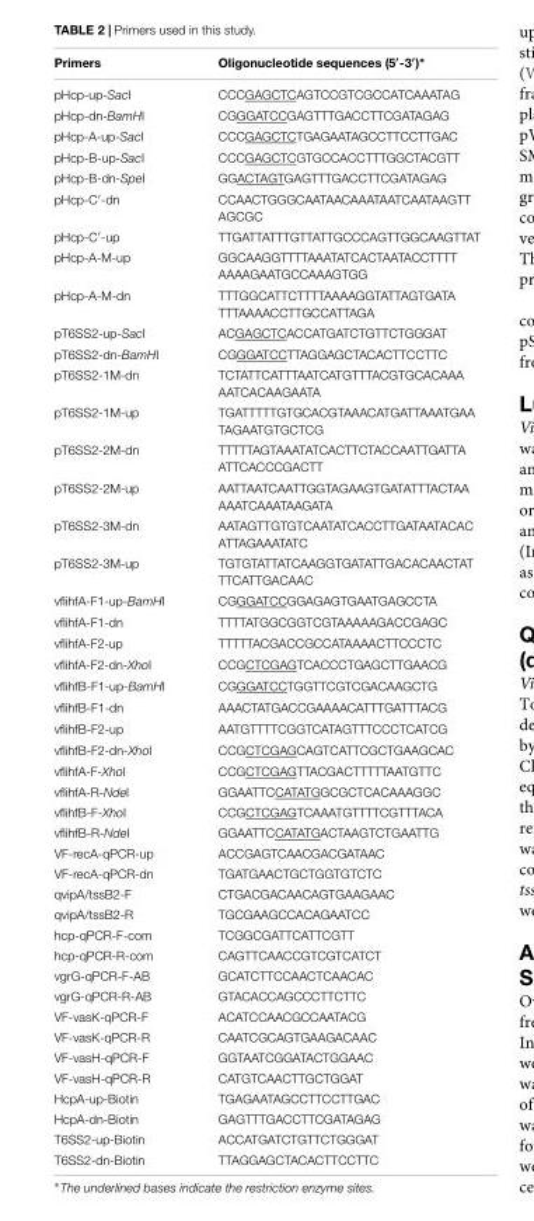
<table><thead><tr><td>Primers</td><td>Oligonucleotide sequences (5′-3′)∗</td></tr></thead><tbody><tr><td>pHcp-up-SacI</td><td>CCCGAGCTCAGTCCGTCGCCATCAAATAG</td></tr><tr><td>pHcp-dn-BamHI</td><td>CGGGATCCGAGTTTGACCTTCGATAGAG</td></tr><tr><td>pHcp-A-up-SacI</td><td>CCCGAGCTCTGAGAATAGCCTTCCTTGAC</td></tr><tr><td>pHcp-B-up-SacI</td><td>CCCGAGCTCGTGCCACCTTTGGCTACGTT</td></tr><tr><td>pHcp-B-dn-SpeI</td><td>GGACTAGTGAGTTTGACCTTCGATAGAG</td></tr><tr><td>pHcp-C′-dn</td><td>CCAACTGGGCAATAACAAATAATCAATAAGTT AGCGC</td></tr><tr><td>pHcp-C′-up</td><td>TTGATTATTTGTTATTGCCCAGTTGGCAAGTTAT</td></tr><tr><td>pHcp-A-M-up</td><td>GGCAAGGTTTTAAATATCACTAATACCTTTT AAAAGAATGCCAAAGTGG</td></tr><tr><td>pHcp-A-M-dn</td><td>TTTGGCATTCTTTTAAAAGGTATTAGTGATA TTTAAAACCTTGCCATTAGA</td></tr><tr><td>pT6SS2-up-SacI</td><td>ACGAGCTCACCATGATCTGTTCTGGGAT</td></tr><tr><td>pT6SS2-dn-BamHI</td><td>CGGGATCCTTAGGAGCTACACTTCCTTC</td></tr><tr><td>pT6SS2-1M-dn</td><td>TCTATTCATTTAATCATGTTTACGTGCACAAA AATCACAAGAATA</td></tr><tr><td>pT6SS2-1M-up</td><td>TGATTTTTGTGCACGTAAACATGATTAAATGAA TAGAATGTGCTCG</td></tr><tr><td>pT6SS2-2M-dn</td><td>TTTTTAGTAAATATCACTTCTACCAATTGATTA ATTCACCCGACTT</td></tr><tr><td>pT6SS2-2M-up</td><td>AATTAATCAATTGGTAGAAGTGATATTTACTAA AAATCAAATAAGATA</td></tr><tr><td>pT6SS2-3M-dn</td><td>AATAGTTGTGTCAATATCACCTTGATAATACAC ATTAGAAATATC</td></tr><tr><td>pT6SS2-3M-up</td><td>TGTGTATTATCAAGGTGATATTGACACAACTAT TTCATTGACAAC</td></tr><tr><td>vflihfA-F1-up-BamHI</td><td>CGGGATCCGGAGAGTGAATGAGCCTA</td></tr><tr><td>vflihfA-F1-dn</td><td>TTTTATGGCGGTCGTAAAAAGACCGAGC</td></tr><tr><td>vflihfA-F2-up</td><td>TTTTTACGACCGCCATAAAACTTCCCTC</td></tr><tr><td>vflihfA-F2-dn-XhoI</td><td>CCGCTCGAGTCACCCTGAGCTTGAACG</td></tr><tr><td>vflihfB-F1-up-BamHI</td><td>CGGGATCCTGGTTCGTCGACAAGCTG</td></tr><tr><td>vflihfB-F1-dn</td><td>AAACTATGACCGAAAACATTTGATTTACG</td></tr><tr><td>vflihfB-F2-up</td><td>AATGTTTTCGGTCATAGTTTCCCTCATCG</td></tr><tr><td>vflihfB-F2-dn-XhoI</td><td>CCGCTCGAGCAGTCATTCGCTGAAGCAC</td></tr><tr><td>vflihfA-F-XhoI</td><td>CCGCTCGAGTTACGACTTTTTAATGTTC</td></tr><tr><td>vflihfA-R-NdeI</td><td>GGAATTCCATATGGCGCTCACAAAGGC</td></tr><tr><td>vflihfB-F-XhoI</td><td>CCGCTCGAGTCAAATGTTTTCGTTTACA</td></tr><tr><td>vflihfB-R-NdeI</td><td>GGAATTCCATATGACTAAGTCTGAATTG</td></tr><tr><td>VF-recA-qPCR-up</td><td>ACCGAGTCAACGACGATAAC</td></tr><tr><td>VF-recA-qPCR-dn</td><td>TGATGAACTGCTGGTGTCTC</td></tr><tr><td>qvipA/tssB2-F</td><td>CTGACGACAACAGTGAAGAAC</td></tr><tr><td>qvipA/tssB2-R</td><td>TGCGAAGCCACAGAATCC</td></tr><tr><td>hcp-qPCR-F-com</td><td>TCGGCGATTCATTCGTT</td></tr><tr><td>hcp-qPCR-R-com</td><td>CAGTTCAACCGTCGTCATCT</td></tr><tr><td>vgrG-qPCR-F-AB</td><td>GCATCTTCCAACTCAACAC</td></tr><tr><td>vgrG-qPCR-R-AB</td><td>GTACACCAGCCCTTCTTC</td></tr><tr><td>VF-vasK-qPCR-F</td><td>ACATCCAACGCCAATACG</td></tr><tr><td>VF-vasK-qPCR-R</td><td>CAATCGCAGTGAAGACAAC</td></tr><tr><td>VF-vasH-qPCR-F</td><td>GGTAATCGGATACTGGAAC</td></tr><tr><td>VF-vasH-qPCR-R</td><td>CATGTCAACTTGCTGGAT</td></tr><tr><td>HcpA-up-Biotin</td><td>TGAGAATAGCCTTCCTTGAC</td></tr><tr><td>HcpA-dn-Biotin</td><td>GAGTTTGACCTTCGATAGAG</td></tr><tr><td>T6SS2-up-Biotin</td><td>ACCATGATCTGTTCTGGGAT</td></tr><tr><td>T6SS2-dn-Biotin</td><td>TTAGGAGCTACACTTCCTTC</td></tr></tbody></table>